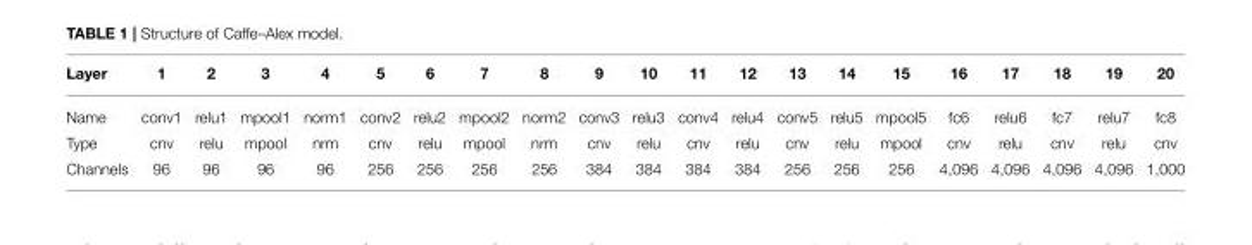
<table><thead><tr><td>Layer</td><td>1</td><td>2</td><td>3</td><td>4</td><td>5</td><td>6</td><td>7</td><td>8</td><td>9</td><td>10</td><td>11</td><td>12</td><td>13</td><td>14</td><td>15</td><td>16</td><td>17</td><td>18</td><td>19</td><td>20</td></tr></thead><tbody><tr><td>Name</td><td>conv1</td><td>relu1</td><td>mpool1</td><td>norm1</td><td>conv2</td><td>relu2</td><td>mpool2</td><td>norm2</td><td>conv3</td><td>relu3</td><td>conv4</td><td>relu4</td><td>conv5</td><td>relu5</td><td>mpool5</td><td>fc6</td><td>relu6</td><td>fc7</td><td>relu7</td><td>fc8</td></tr><tr><td>Type</td><td>cnv</td><td>relu</td><td>mpool</td><td>nrm</td><td>cnv</td><td>relu</td><td>mpool</td><td>nrm</td><td>cnv</td><td>relu</td><td>cnv</td><td>relu</td><td>cnv</td><td>relu</td><td>mpool</td><td>cnv</td><td>relu</td><td>cnv</td><td>relu</td><td>cnv</td></tr><tr><td>Channels</td><td>96</td><td>96</td><td>96</td><td>96</td><td>256</td><td>256</td><td>256</td><td>256</td><td>384</td><td>384</td><td>384</td><td>384</td><td>256</td><td>256</td><td>256</td><td>4,096</td><td>4,096</td><td>4,096</td><td>4,096</td><td>1,000</td></tr></tbody></table>